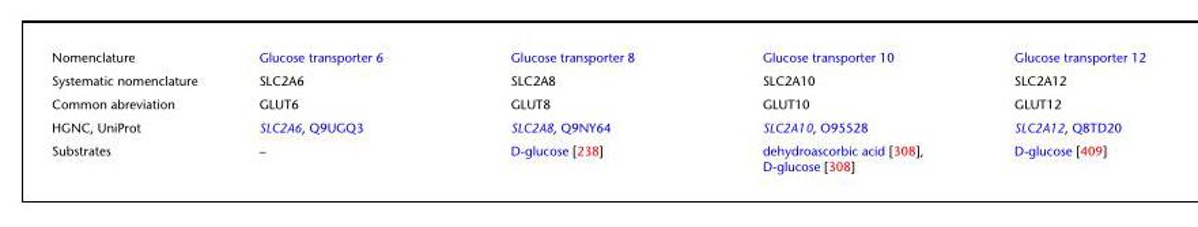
<table><tbody><tr><td>Nomenclature</td><td>Glucose transporter 6</td><td>Glucose transporter 8</td><td>Glucose transporter 10</td><td>Glucose transporter 12</td></tr><tr><td>Systematic nomenclature</td><td>SLC2A6</td><td>SLC2A8</td><td>SLC2A10</td><td>SLC2A12</td></tr><tr><td>Common abreviation</td><td>GLUT6</td><td>GLUT8</td><td>GLUT10</td><td>GLUT12</td></tr><tr><td>HGNC, UniProt</td><td>SLC2A6, Q9UGQ3</td><td>SLC2A8, Q9NY64</td><td>SLC2A10, O95528</td><td>SLC2A12, Q8TD20</td></tr><tr><td>Substrates</td><td>–</td><td>D-glucose [238]</td><td>dehydroascorbic acid [308], D-glucose [308]</td><td>D-glucose [409]</td></tr></tbody></table>